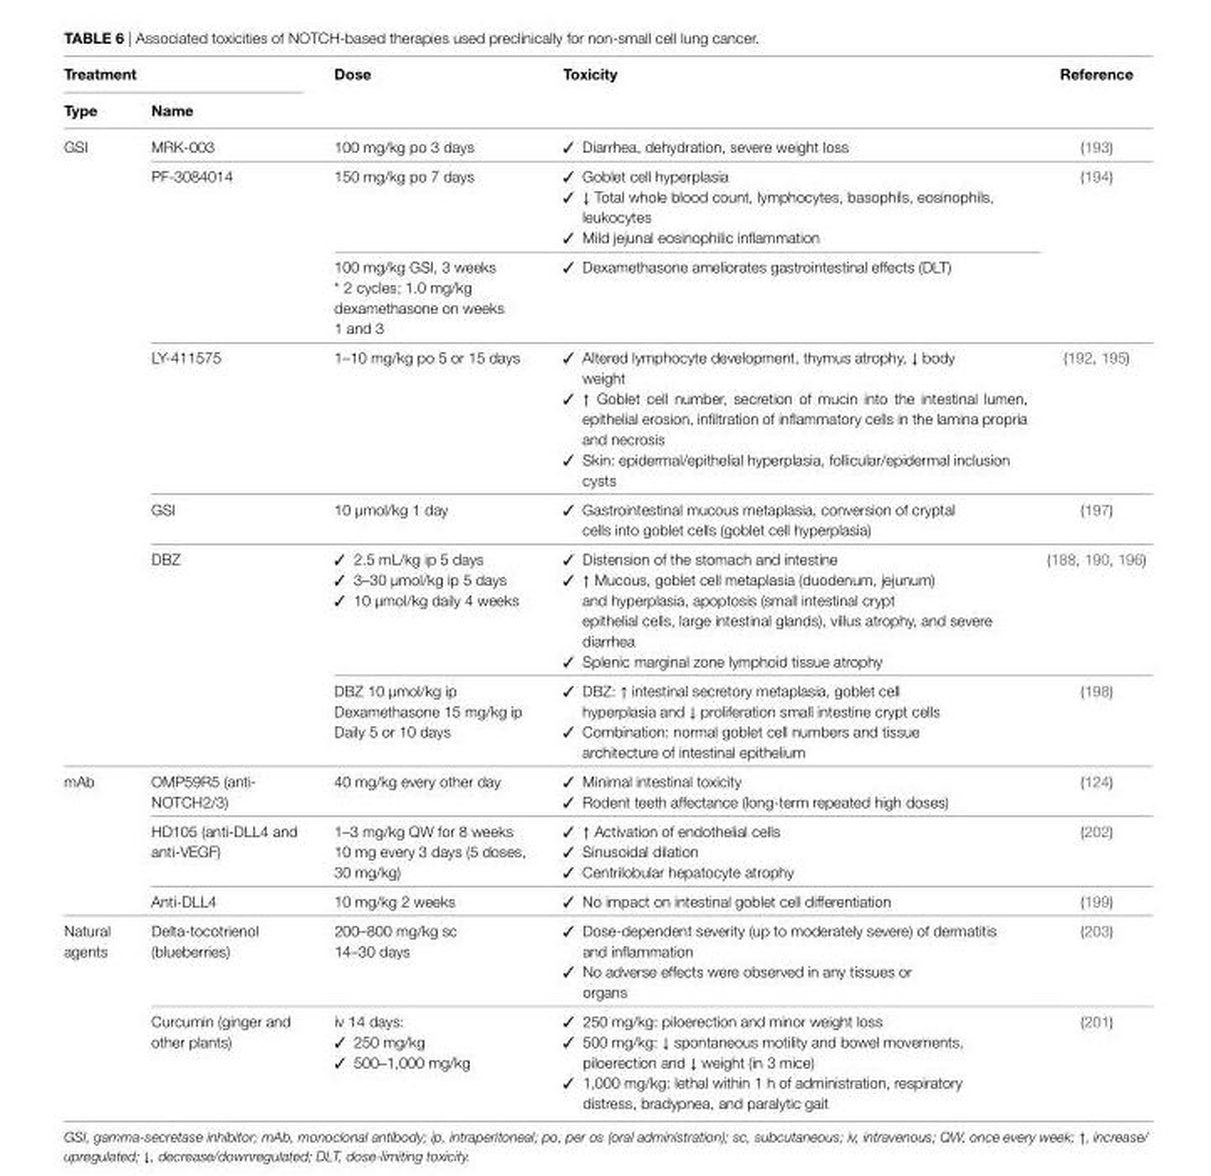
<table><thead><tr><td colspan="2">Treatment</td><td rowspan="2">Dose</td><td rowspan="2">Toxicity</td><td rowspan="2">Reference</td></tr><tr><td>Type</td><td>Name</td></tr></thead><tbody><tr><td rowspan="7">GSI</td><td>MRK-003</td><td>100 mg/kg po 3 days</td><td>✓ Diarrhea, dehydration, severe weight loss</td><td>(193)</td></tr><tr><td rowspan="2">PF-3084014</td><td>150 mg/kg po 7 days</td><td>✓ Goblet cell hyperplasia ✓ ↓ Total whole blood count, lymphocytes, basophils, eosinophils, leukocytes ✓ Mild jejunal eosinophilic inflammation</td><td rowspan="2">(194)</td></tr><tr><td>100 mg/kg GSI, 3 weeks * 2 cycles; 1.0 mg/kg dexamethasone on weeks 1 and 3</td><td>✓ Dexamethasone ameliorates gastrointestinal effects (DLT)</td></tr><tr><td>LY-411575</td><td>1–10 mg/kg po 5 or 15 days</td><td>✓ Altered lymphocyte development, thymus atrophy, ↓ body weight ✓ ↑ Goblet cell number, secretion of mucin into the inte stinal lumen, epithelial erosion, infiltration of inflammatory cells in the lamina propria and necrosis ✓ Skin: epidermal/epithelial hyperplasia, follicular/epidermal inclusion cysts</td><td>(192, 195)</td></tr><tr><td>GSI</td><td>10 µmol/kg 1 day</td><td>✓ Gastrointestinal mucous metaplasia, conversion of cryptal cells into goblet cells (goblet cell hyperplasia)</td><td>(197)</td></tr><tr><td rowspan="2">DBZ</td><td>✓ 2.5 mL/kg ip 5 days ✓ 3–30 µmol/kg ip 5 days ✓ 10 µmol/kg daily 4 weeks</td><td>✓ Distension of the stomach and intestine ✓ ↑ Mucous, goblet cell metaplasia (duodenum, jejunum) and hyperplasia, apoptosis (small intestinal crypt epithelial cells, large intestinal glands), villus atrophy, and severe diarrhea ✓ Splenic marginal zone lymphoid tissue atrophy</td><td>(188, 190, 196)</td></tr><tr><td>DBZ 10 µmol/kg ip Dexamethasone 15 mg/kg ip Daily 5 or 10 days</td><td>✓ DBZ: ↑ intestinal secretory metaplasia, goblet cell hyperplasia and ↓ proliferation small intestine crypt cells ✓ Combination: normal goblet cell numbers and tissue architecture of intestinal epithelium</td><td>(198)</td></tr><tr><td rowspan="3">mAb</td><td>OMP59R5 (anti- NOTCH2/3)</td><td>40 mg/kg every other day</td><td>✓ Minimal intestinal toxicity ✓ Rodent teeth affectance (long-term repeated high doses)</td><td>(124)</td></tr><tr><td>HD105 (anti-DLL4 and anti-VEGF)</td><td>1–3 mg/kg QW for 8 weeks 10 mg every 3 days (5 doses, 30 mg/kg)</td><td>✓ ↑ Activation of endothelial cells ✓ Sinusoidal dilation ✓ Centrilobular hepatocyte atrophy</td><td>(202)</td></tr><tr><td>Anti-DLL4</td><td>10 mg/kg 2 weeks</td><td>✓ No impact on intestinal goblet cell differentiation</td><td>(199)</td></tr><tr><td rowspan="2">Natural agents</td><td>Delta-tocotrienol (blueberries)</td><td>200–800 mg/kg sc 14–30 days</td><td>✓ Dose-dependent severity (up to moderately severe) of dermatitis and inflammation ✓ No adverse effects were observed in any tissues or organs</td><td>(203)</td></tr><tr><td>Curcumin (ginger and other plants)</td><td>iv 14 days: ✓ 250 mg/kg ✓ 500–1,000 mg/kg</td><td>✓ 250 mg/kg: piloerection and minor weight loss ✓ 500 mg/kg: ↓ spontaneous motility and bowel movements, piloerection and ↓ weight (in 3 mice) ✓ 1,000 mg/kg: lethal within 1 h of administration, respiratory distress, bradypnea, and paralytic gait</td><td>(201)</td></tr></tbody></table>